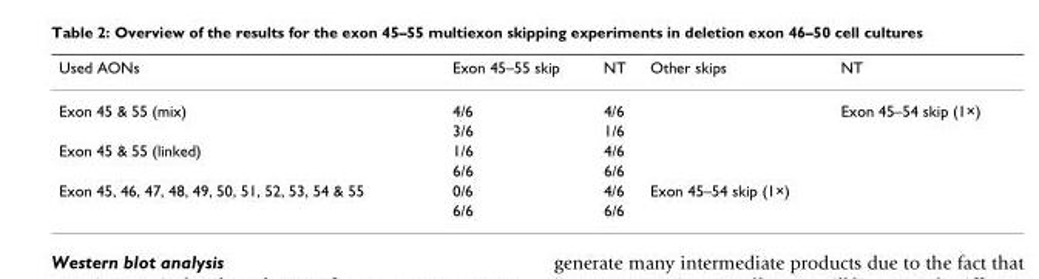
<table><thead><tr><td>Used AONs</td><td>Exon 45–55 skip</td><td>NT</td><td>Other skips</td><td>NT</td></tr></thead><tbody><tr><td rowspan="2">Exon 45 &amp; 55 (mix)</td><td>4/6</td><td>4/6</td><td></td><td>Exon 45–54 skip (1×)</td></tr><tr><td>3/6</td><td>1/6</td><td></td><td></td></tr><tr><td rowspan="2">Exon 45 &amp; 55 (linked)</td><td>1/6</td><td>4/6</td><td></td><td></td></tr><tr><td>6/6</td><td>6/6</td><td></td><td></td></tr><tr><td rowspan="2">Exon 45, 46, 47, 48, 49, 50, 51, 52, 53, 54 &amp; 55</td><td>0/6</td><td>4/6</td><td>Exon 45–54 skip (1×)</td><td></td></tr><tr><td>6/6</td><td>6/6</td><td></td><td></td></tr></tbody></table>